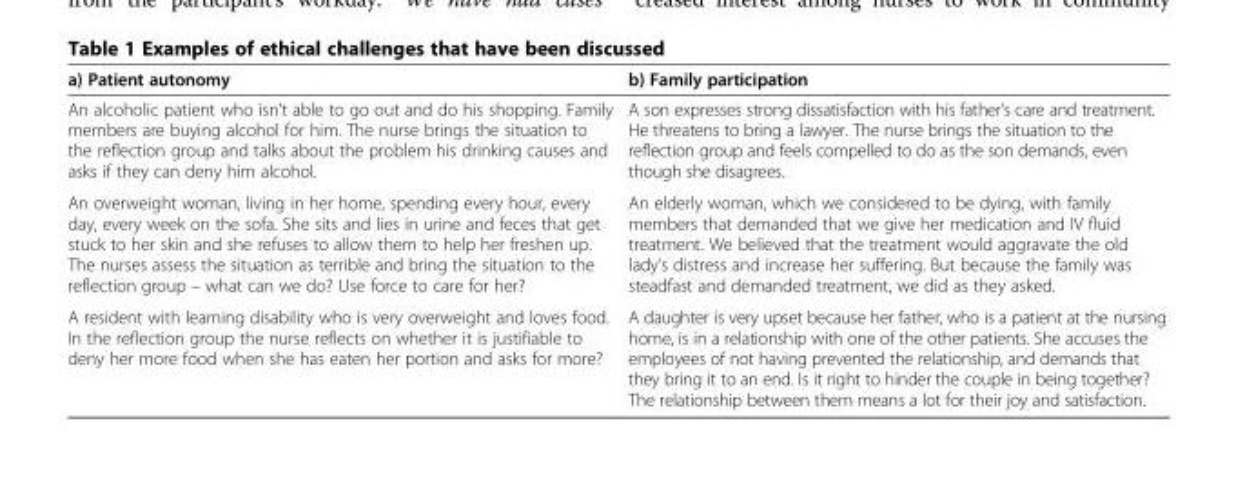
<table><thead><tr><td>a) Patient autonomy</td><td>b) Family participation</td></tr></thead><tbody><tr><td>An alcoholic patient who isn’t able to go out and do his shopping. Family members are buying alcohol for him. The nurse brings the situation to the reflection group and talks about the problem his drinking causes and asks if they can deny him alcohol.</td><td>A son expresses strong dissatisfaction with his father’s care and treatment. He threatens to bring a lawyer. The nurse brings the situation to the reflection group and feels compelled to do as the son demands, even though she disagrees.</td></tr><tr><td>An overweight woman, living in her home, spending every hour, every day, every week on the sofa. She sits and lies in urine and feces that get stuck to her skin and she refuses to allow them to help her freshen up. The nurses assess the situation as terrible and bring the situation to the reflection group – what can we do? Use force to care for her?</td><td>An elderly woman, which we considered to be dying, with family members that demanded that we give her medication and IV fluid treatment. We believed that the treatment would aggravate the old lady’s distress and increase her suffering. But because the family was steadfast and demanded treatment, we did as they asked.</td></tr><tr><td>A resident with learning disability who is very overweight and loves food. In the reflection group the nurse reflects on whether it is justifiable to deny her more food when she has eaten her portion and asks for more?</td><td>A daughter is very upset because her father, who is a patient at the nursing home, is in a relationship with one of the other patients. She accuses the employees of not having prevented the relationship, and demands that they bring it to an end. Is it right to hinder the couple in being together? The relationship between them means a lot for their joy and satisfaction.</td></tr></tbody></table>